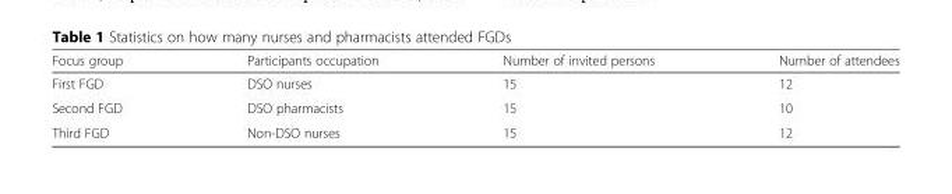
<table><thead><tr><td>Focus group</td><td>Participants occupation</td><td>Number of invited persons</td><td>Number of attendees</td></tr></thead><tbody><tr><td>First FGD</td><td>DSO nurses</td><td>15</td><td>12</td></tr><tr><td>Second FGD</td><td>DSO pharmacists</td><td>15</td><td>10</td></tr><tr><td>Third FGD</td><td>Non-DSO nurses</td><td>15</td><td>12</td></tr></tbody></table>